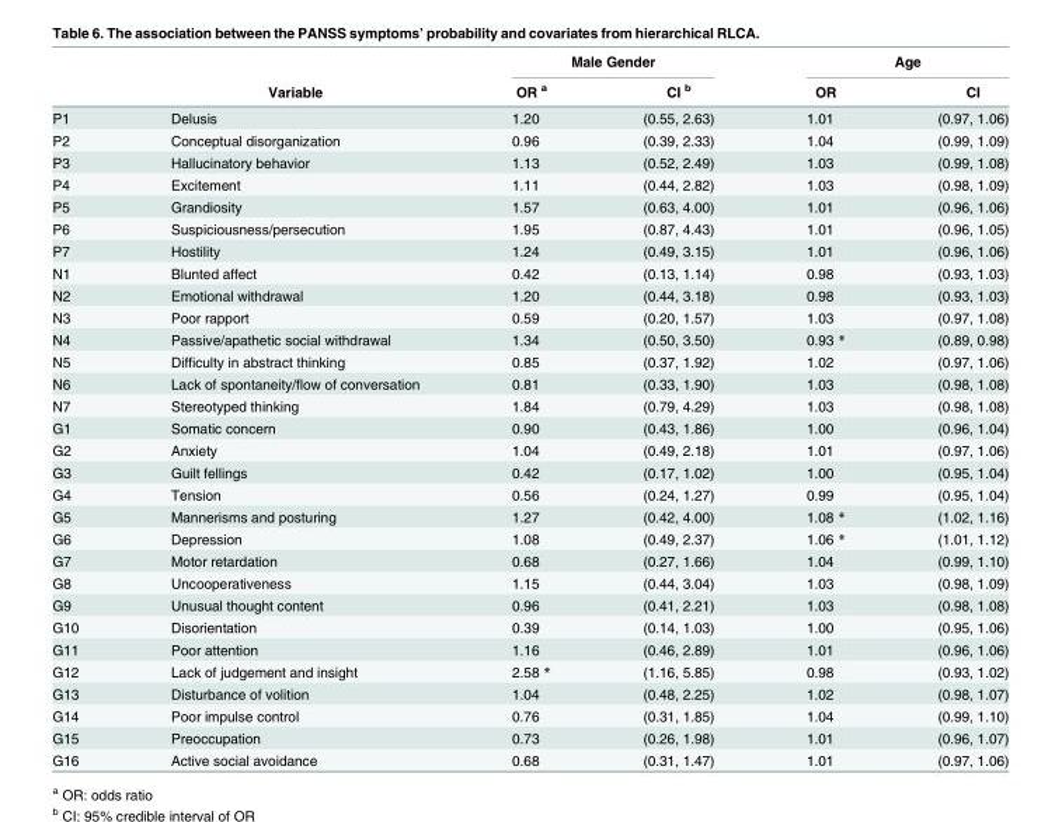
<table><thead><tr><td rowspan="2"></td><td rowspan="2">Variable</td><td colspan="2">Male Gender</td><td colspan="2">Age</td></tr><tr><td>OR <sup>a</sup></td><td>CI <sup>b</sup></td><td>OR</td><td>CI</td></tr></thead><tbody><tr><td>P1</td><td>Delusis</td><td>1.20</td><td>(0.55, 2.63)</td><td>1.01</td><td>(0.97, 1.06)</td></tr><tr><td>P2</td><td>Conceptual disorganization</td><td>0.96</td><td>(0.39, 2.33)</td><td>1.04</td><td>(0.99, 1.09)</td></tr><tr><td>P3</td><td>Hallucinatory behavior</td><td>1.13</td><td>(0.52, 2.49)</td><td>1.03</td><td>(0.99, 1.08)</td></tr><tr><td>P4</td><td>Excitement</td><td>1.11</td><td>(0.44, 2.82)</td><td>1.03</td><td>(0.98, 1.09)</td></tr><tr><td>P5</td><td>Grandiosity</td><td>1.57</td><td>(0.63, 4.00)</td><td>1.01</td><td>(0.96, 1.06)</td></tr><tr><td>P6</td><td>Suspiciousness/persecution</td><td>1.95</td><td>(0.87, 4.43)</td><td>1.01</td><td>(0.96, 1.05)</td></tr><tr><td>P7</td><td>Hostility</td><td>1.24</td><td>(0.49, 3.15)</td><td>1.01</td><td>(0.96, 1.06)</td></tr><tr><td>N1</td><td>Blunted affect</td><td>0.42</td><td>(0.13, 1.14)</td><td>0.98</td><td>(0.93, 1.03)</td></tr><tr><td>N2</td><td>Emotional withdrawal</td><td>1.20</td><td>(0.44, 3.18)</td><td>0.98</td><td>(0.93, 1.03)</td></tr><tr><td>N3</td><td>Poor rapport</td><td>0.59</td><td>(0.20, 1.57)</td><td>1.03</td><td>(0.97, 1.08)</td></tr><tr><td>N4</td><td>Passive/apathetic social withdrawal</td><td>1.34</td><td>(0.50, 3.50)</td><td>0.93 *</td><td>(0.89, 0.98)</td></tr><tr><td>N5</td><td>Difficulty in abstract thinking</td><td>0.85</td><td>(0.37, 1.92)</td><td>1.02</td><td>(0.97, 1.06)</td></tr><tr><td>N6</td><td>Lack of spontaneity/flow of conversation</td><td>0.81</td><td>(0.33, 1.90)</td><td>1.03</td><td>(0.98, 1.08)</td></tr><tr><td>N7</td><td>Stereotyped thinking</td><td>1.84</td><td>(0.79, 4.29)</td><td>1.03</td><td>(0.98, 1.08)</td></tr><tr><td>G1</td><td>Somatic concern</td><td>0.90</td><td>(0.43, 1.86)</td><td>1.00</td><td>(0.96, 1.04)</td></tr><tr><td>G2</td><td>Anxiety</td><td>1.04</td><td>(0.49, 2.18)</td><td>1.01</td><td>(0.97, 1.06)</td></tr><tr><td>G3</td><td>Guilt fellings</td><td>0.42</td><td>(0.17, 1.02)</td><td>1.00</td><td>(0.95, 1.04)</td></tr><tr><td>G4</td><td>Tension</td><td>0.56</td><td>(0.24, 1.27)</td><td>0.99</td><td>(0.95, 1.04)</td></tr><tr><td>G5</td><td>Mannerisms and posturing</td><td>1.27</td><td>(0.42, 4.00)</td><td>1.08 *</td><td>(1.02, 1.16)</td></tr><tr><td>G6</td><td>Depression</td><td>1.08</td><td>(0.49, 2.37)</td><td>1.06 *</td><td>(1.01, 1.12)</td></tr><tr><td>G7</td><td>Motor retardation</td><td>0.68</td><td>(0.27, 1.66)</td><td>1.04</td><td>(0.99, 1.10)</td></tr><tr><td>G8</td><td>Uncooperativeness</td><td>1.15</td><td>(0.44, 3.04)</td><td>1.03</td><td>(0.98, 1.09)</td></tr><tr><td>G9</td><td>Unusual thought content</td><td>0.96</td><td>(0.41, 2.21)</td><td>1.03</td><td>(0.98, 1.08)</td></tr><tr><td>G10</td><td>Disorientation</td><td>0.39</td><td>(0.14, 1.03)</td><td>1.00</td><td>(0.95, 1.06)</td></tr><tr><td>G11</td><td>Poor attention</td><td>1.16</td><td>(0.46, 2.89)</td><td>1.01</td><td>(0.96, 1.06)</td></tr><tr><td>G12</td><td>Lack of judgement and insight</td><td>2.58 *</td><td>(1.16, 5.85)</td><td>0.98</td><td>(0.93, 1.02)</td></tr><tr><td>G13</td><td>Disturbance of volition</td><td>1.04</td><td>(0.48, 2.25)</td><td>1.02</td><td>(0.98, 1.07)</td></tr><tr><td>G14</td><td>Poor impulse control</td><td>0.76</td><td>(0.31, 1.85)</td><td>1.04</td><td>(0.99, 1.10)</td></tr><tr><td>G15</td><td>Preoccupation</td><td>0.73</td><td>(0.26, 1.98)</td><td>1.01</td><td>(0.96, 1.07)</td></tr><tr><td>G16</td><td>Active social avoidance</td><td>0.68</td><td>(0.31, 1.47)</td><td>1.01</td><td>(0.97, 1.06)</td></tr></tbody></table>